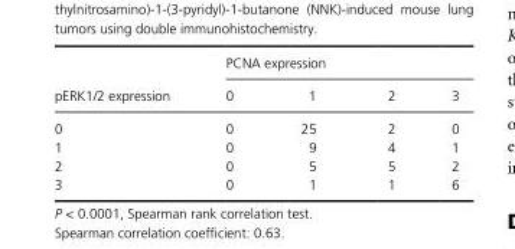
<table><thead><tr><td rowspan="2">pERK1/2 expression</td><td colspan="4">PCNA expression</td></tr><tr><td>0</td><td>1</td><td>2</td><td>3</td></tr></thead><tbody><tr><td>0</td><td>0</td><td>25</td><td>2</td><td>0</td></tr><tr><td>1</td><td>0</td><td>9</td><td>4</td><td>1</td></tr><tr><td>2</td><td>0</td><td>5</td><td>5</td><td>2</td></tr><tr><td>3</td><td>0</td><td>1</td><td>1</td><td>6</td></tr></tbody></table>